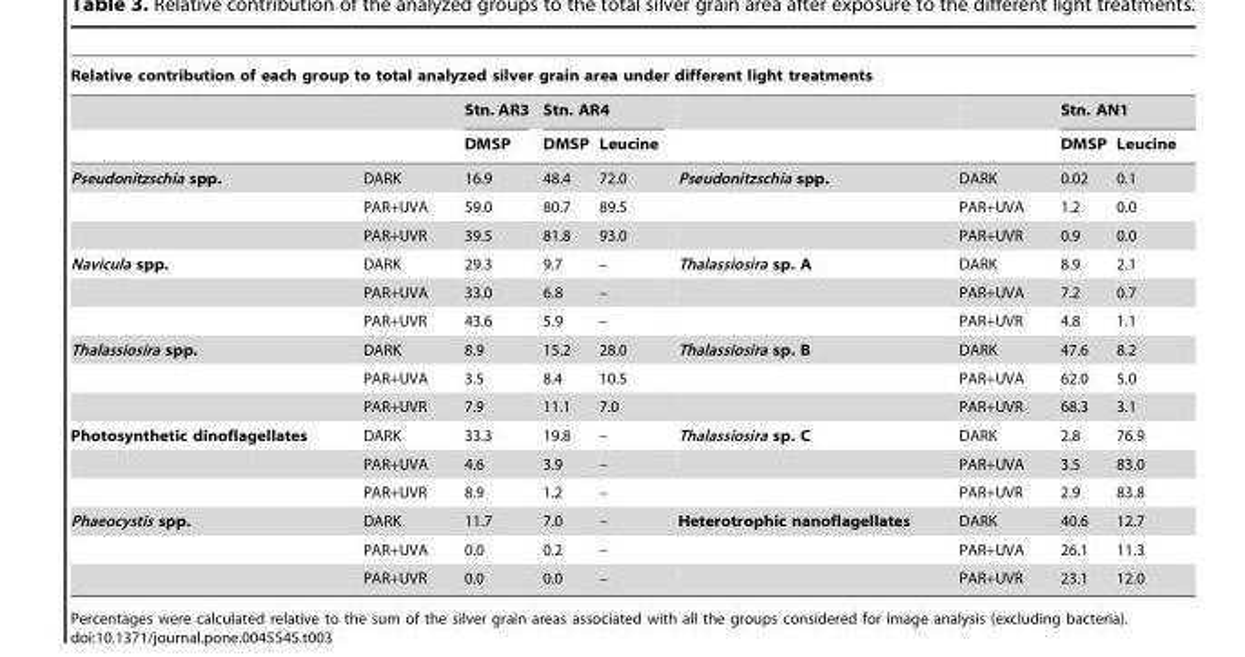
<table><thead><tr><td colspan="9">Relative contribution of each group to total analyzed silver grain area under different light treatments</td></tr><tr><td rowspan="2"></td><td rowspan="2"></td><td rowspan="2">Stn. AR3 DMSP</td><td colspan="2">Stn. AR4</td><td rowspan="2"></td><td rowspan="2"></td><td colspan="2">Stn. AN1</td></tr><tr><td>DMSP</td><td>Leucine</td><td>DMSP</td><td>Leucine</td></tr></thead><tbody><tr><td rowspan="3">Pseudonitzschia spp.</td><td>DARK</td><td>16.9</td><td>48.4</td><td>72.0</td><td>Pseudonitzschia spp.</td><td>DARK</td><td>0.02</td><td>0.1</td></tr><tr><td>PAR+UVA</td><td>59.0</td><td>80.7</td><td>89.5</td><td></td><td>PAR+UVA</td><td>1.2</td><td>0.0</td></tr><tr><td>PAR+UVR</td><td>39.5</td><td>81.8</td><td>93.0</td><td></td><td>PAR+UVR</td><td>0.9</td><td>0.0</td></tr><tr><td rowspan="3">Navicula spp.</td><td>DARK</td><td>29.3</td><td>9.7</td><td>–</td><td>Thalassiosira sp. A</td><td>DARK</td><td>8.9</td><td>2.1</td></tr><tr><td>PAR+UVA</td><td>33.0</td><td>6.8</td><td>–</td><td></td><td>PAR+UVA</td><td>7.2</td><td>0.7</td></tr><tr><td>PAR+UVR</td><td>43.6</td><td>5.9</td><td>–</td><td></td><td>PAR+UVR</td><td>4.8</td><td>1.1</td></tr><tr><td rowspan="3">Thalassiosira spp.</td><td>DARK</td><td>8.9</td><td>15.2</td><td>28.0</td><td>Thalassiosira sp. B</td><td>DARK</td><td>47.6</td><td>8.2</td></tr><tr><td>PAR+UVA</td><td>3.5</td><td>8.4</td><td>10.5</td><td></td><td>PAR+UVA</td><td>62.0</td><td>5.0</td></tr><tr><td>PAR+UVR</td><td>7.9</td><td>11.1</td><td>7.0</td><td></td><td>PAR+UVR</td><td>68.3</td><td>3.1</td></tr><tr><td rowspan="3">Photosynthetic dinoflagellates</td><td>DARK</td><td>33.3</td><td>19.8</td><td>–</td><td>Thalassiosira sp. C</td><td>DARK</td><td>2.8</td><td>76.9</td></tr><tr><td>PAR+UVA</td><td>4.6</td><td>3.9</td><td>–</td><td></td><td>PAR+UVA</td><td>3.5</td><td>83.0</td></tr><tr><td>PAR+UVR</td><td>8.9</td><td>1.2</td><td>–</td><td></td><td>PAR+UVR</td><td>2.9</td><td>83.8</td></tr><tr><td rowspan="3">Phaeocystis spp.</td><td>DARK</td><td>11.7</td><td>7.0</td><td>–</td><td>Heterotrophic nanoflagellates</td><td>DARK</td><td>40.6</td><td>12.7</td></tr><tr><td>PAR+UVA</td><td>0.0</td><td>0.2</td><td>–</td><td></td><td>PAR+UVA</td><td>26.1</td><td>11.3</td></tr><tr><td>PAR+UVR</td><td>0.0</td><td>0.0</td><td>–</td><td></td><td>PAR+UVR</td><td>23.1</td><td>12.0</td></tr></tbody></table>